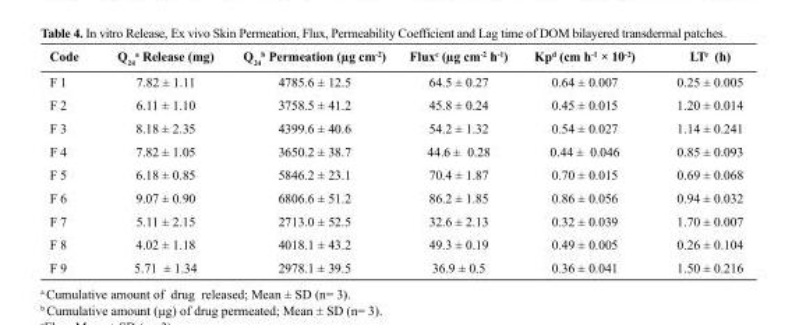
<table><thead><tr><td>Code</td><td>Q<sub>24</sub> <sup>a</sup> Release (mg)</td><td>Q24 b Permeation (µg cm-2)</td><td>Flux<sup>c</sup> (µg cm<sup>-2</sup> h<sup>-1</sup>)</td><td>Kp<sup>d</sup> (cm h<sup>-1</sup> × 10<sup>-2</sup>)</td><td>LT<sup>e</sup> (h)</td></tr></thead><tbody><tr><td>F 1</td><td>7.82 ± 1.11</td><td>4785.6 ± 12.5</td><td>64.5 ± 0.27</td><td>0.64 ± 0.007</td><td>0.25 ± 0.005</td></tr><tr><td>F 2</td><td>6.11 ± 1.10</td><td>3758.5 ± 41.2</td><td>45.8 ± 0.24</td><td>0.45 ± 0.015</td><td>1.20 ± 0.014</td></tr><tr><td>F 3</td><td>8.18 ± 2.35</td><td>4399.6 ± 40.6</td><td>54.2 ± 1.32</td><td>0.54 ± 0.027</td><td>1.14 ± 0.241</td></tr><tr><td>F 4</td><td>7.82 ± 1.05</td><td>3650.2 ± 38.7</td><td>44.6 ± 0.28</td><td>0.44 ± 0.046</td><td>0.85 ± 0.093</td></tr><tr><td>F 5</td><td>6.18 ± 0.85</td><td>5846.2 ± 23.1</td><td>70.4 ± 1.87</td><td>0.70 ± 0.015</td><td>0.69 ± 0.068</td></tr><tr><td>F 6</td><td>9.07 ± 0.90</td><td>6806.6 ± 51.2</td><td>86.2 ± 1.85</td><td>0.86 ± 0.056</td><td>0.94 ± 0.032</td></tr><tr><td>F 7</td><td>5.11 ± 2.15</td><td>2713.0 ± 52.5</td><td>32.6 ± 2.13</td><td>0.32 ± 0.039</td><td>1.70 ± 0.007</td></tr><tr><td>F 8</td><td>4.02 ± 1.18</td><td>4018.1 ± 43.2</td><td>49.3 ± 0.19</td><td>0.49 ± 0.005</td><td>0.26 ± 0.104</td></tr><tr><td>F 9</td><td>5.71 ± 1.34</td><td>2978.1 ± 39.5</td><td>36.9 ± 0.5</td><td>0.36 ± 0.041</td><td>1.50 ± 0.216</td></tr></tbody></table>